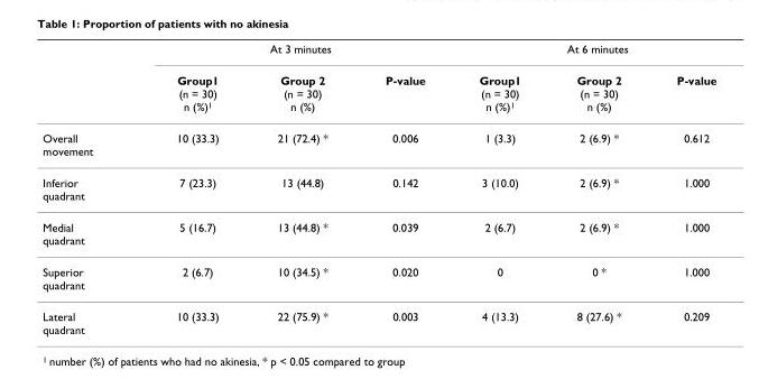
<table><thead><tr><td rowspan="2"></td><td colspan="3">At 3 minutes</td><td colspan="3">At 6 minutes</td></tr><tr><td>Group1 (n = 30) n (%)<sup>1</sup></td><td>Group 2 (n = 30) n (%)</td><td>P-value</td><td>Group1 (n = 30) n (%)<sup>1</sup></td><td>Group 2 (n = 30) n (%)</td><td>P-value</td></tr></thead><tbody><tr><td>Overall movement</td><td>10 (33.3)</td><td>21 (72.4) *</td><td>0.006</td><td>1 (3.3)</td><td>2 (6.9) *</td><td>0.612</td></tr><tr><td>Inferior quadrant</td><td>7 (23.3)</td><td>13 (44.8)</td><td>0.142</td><td>3 (10.0)</td><td>2 (6.9) *</td><td>1.000</td></tr><tr><td>Medial quadrant</td><td>5 (16.7)</td><td>13 (44.8) *</td><td>0.039</td><td>2 (6.7)</td><td>2 (6.9) *</td><td>1.000</td></tr><tr><td>Superior quadrant</td><td>2 (6.7)</td><td>10 (34.5) *</td><td>0.020</td><td>0</td><td>0 *</td><td>1.000</td></tr><tr><td>Lateral quadrant</td><td>10 (33.3)</td><td>22 (75.9) *</td><td>0.003</td><td>4 (13.3)</td><td>8 (27.6) *</td><td>0.209</td></tr></tbody></table>